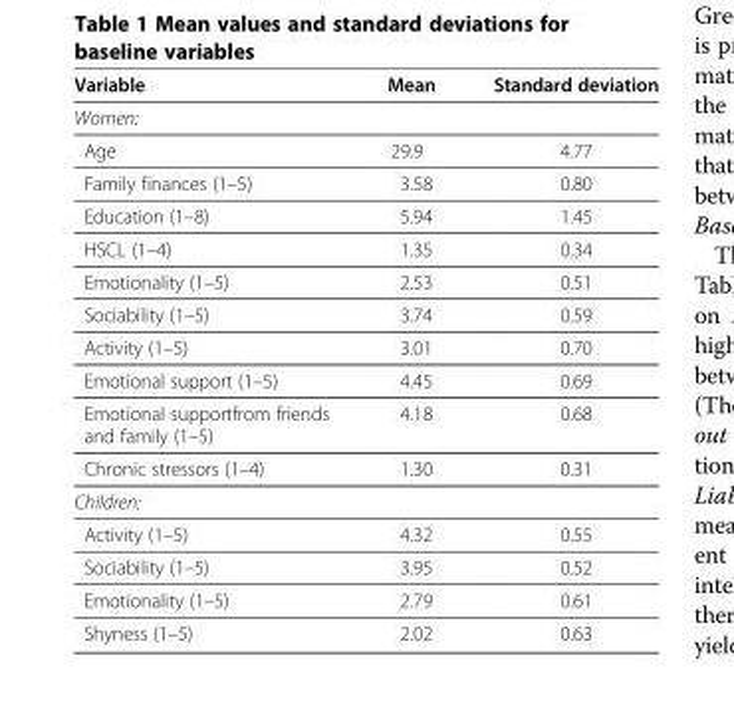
<table><thead><tr><td>Variable</td><td>Mean</td><td>Standard deviation</td></tr></thead><tbody><tr><td colspan="3">Women:</td></tr><tr><td>Age</td><td>29.9</td><td>4.77</td></tr><tr><td>Family finances (1–5)</td><td>3.58</td><td>0.80</td></tr><tr><td>Education (1–8)</td><td>5.94</td><td>1.45</td></tr><tr><td>HSCL (1–4)</td><td>1.35</td><td>0.34</td></tr><tr><td>Emotionality (1–5)</td><td>2.53</td><td>0.51</td></tr><tr><td>Sociability (1–5)</td><td>3.74</td><td>0.59</td></tr><tr><td>Activity (1–5)</td><td>3.01</td><td>0.70</td></tr><tr><td>Emotional support (1–5)</td><td>4.45</td><td>0.69</td></tr><tr><td>Emotional supportfrom friends and family (1–5)</td><td>4.18</td><td>0.68</td></tr><tr><td>Chronic stressors (1–4)</td><td>1.30</td><td>0.31</td></tr><tr><td colspan="3">Children:</td></tr><tr><td>Activity (1–5)</td><td>4.32</td><td>0.55</td></tr><tr><td>Sociability (1–5)</td><td>3.95</td><td>0.52</td></tr><tr><td>Emotionality (1–5)</td><td>2.79</td><td>0.61</td></tr><tr><td>Shyness (1–5)</td><td>2.02</td><td>0.63</td></tr></tbody></table>